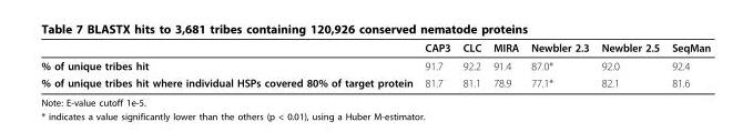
<table><thead><tr><td></td><td>CAP3</td><td>CLC</td><td>MIRA</td><td>Newbler 2.3</td><td>Newbler 2.5</td><td>SeqMan</td></tr></thead><tbody><tr><td>% of unique tribes hit</td><td>91.7</td><td>92.2</td><td>91.4</td><td>87.0*</td><td>92.0</td><td>92.4</td></tr><tr><td>% of unique tribes hit where individual HSPs covered 80% of target protein</td><td>81.7</td><td>81.1</td><td>78.9</td><td>77.1*</td><td>82.1</td><td>81.6</td></tr></tbody></table>